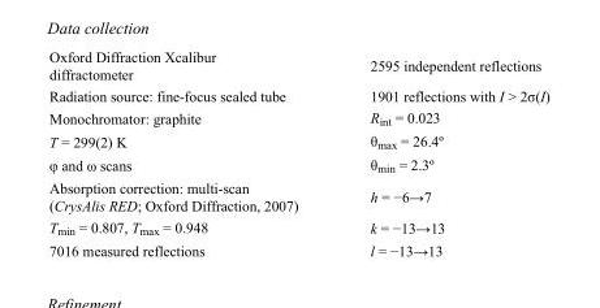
<table><tbody><tr><td>Oxford Diffraction Xcalibur diffractometer</td><td>2595 independent reflections</td></tr><tr><td>Radiation source: fine-focus sealed tube</td><td>1901 reflections with I &gt; 2σ(I)</td></tr><tr><td>Monochromator: graphite</td><td>R<sub>int</sub> = 0.023</td></tr><tr><td>T = 299(2) K</td><td>θ<sub>max</sub> = 26.4º</td></tr><tr><td>φ and ω scans</td><td>θ<sub>min</sub> = 2.3º</td></tr><tr><td>Absorption correction: multi-scan (CrysAlis RED; Oxford Diffraction, 2007)</td><td>h = −6→7</td></tr><tr><td>T<sub>min</sub> = 0.807, T<sub>max</sub> = 0.948</td><td>k = −13→13</td></tr><tr><td>7016 measured reflections</td><td>l = −13→13</td></tr></tbody></table>